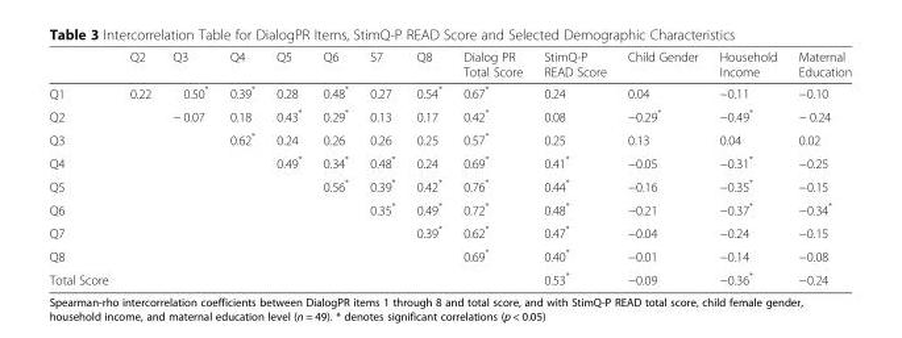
<table><thead><tr><td></td><td>Q2</td><td>Q3</td><td>Q4</td><td>Q5</td><td>Q6</td><td>S7</td><td>Q8</td><td>Dialog PR Total Score</td><td>StimQ-P READ Score</td><td>Child Gender</td><td>Household Income</td><td>Maternal Education</td></tr></thead><tbody><tr><td>Q1</td><td>0.22</td><td>0.50*</td><td>0.39*</td><td>0.28</td><td>0.48*</td><td>0.27</td><td>0.54*</td><td>0.67*</td><td>0.24</td><td>0.04</td><td>−0.11</td><td>−0.10</td></tr><tr><td>Q2</td><td></td><td>− 0.07</td><td>0.18</td><td>0.43*</td><td>0.29*</td><td>0.13</td><td>0.17</td><td>0.42*</td><td>0.08</td><td>−0.29*</td><td>−0.49*</td><td>− 0.24</td></tr><tr><td>Q3</td><td></td><td></td><td>0.62*</td><td>0.24</td><td>0.26</td><td>0.26</td><td>0.25</td><td>0.57*</td><td>0.25</td><td>0.13</td><td>0.04</td><td>0.02</td></tr><tr><td>Q4</td><td></td><td></td><td></td><td>0.49*</td><td>0.34*</td><td>0.48*</td><td>0.24</td><td>0.69*</td><td>0.41*</td><td>−0.05</td><td>−0.31*</td><td>−0.25</td></tr><tr><td>Q5</td><td></td><td></td><td></td><td></td><td>0.56*</td><td>0.39*</td><td>0.42*</td><td>0.76*</td><td>0.44*</td><td>−0.16</td><td>−0.35*</td><td>−0.15</td></tr><tr><td>Q6</td><td></td><td></td><td></td><td></td><td></td><td>0.35*</td><td>0.49*</td><td>0.72*</td><td>0.48*</td><td>−0.21</td><td>−0.37*</td><td>−0.34*</td></tr><tr><td>Q7</td><td></td><td></td><td></td><td></td><td></td><td></td><td>0.39*</td><td>0.62*</td><td>0.47*</td><td>−0.04</td><td>−0.24</td><td>−0.15</td></tr><tr><td>Q8</td><td></td><td></td><td></td><td></td><td></td><td></td><td></td><td>0.69*</td><td>0.40*</td><td>−0.01</td><td>−0.14</td><td>−0.08</td></tr><tr><td>Total Score</td><td></td><td></td><td></td><td></td><td></td><td></td><td></td><td></td><td>0.53*</td><td>−0.09</td><td>−0.36*</td><td>−0.24</td></tr></tbody></table>